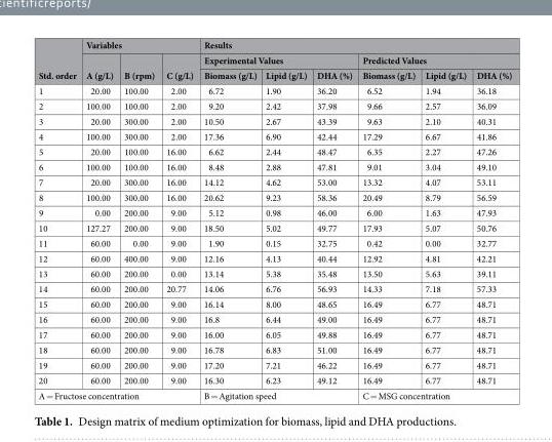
<table><thead><tr><td rowspan="3">Std. order</td><td colspan="3">Variables</td><td colspan="6">Results</td></tr><tr><td rowspan="2">A (g/L)</td><td rowspan="2">B (rpm)</td><td rowspan="2">C (g/L)</td><td colspan="3">Experimental Values</td><td colspan="3">Predicted Values</td></tr><tr><td>Biomass (g/L)</td><td>Lipid (g/L)</td><td>DHA (%)</td><td>Biomass (g/L)</td><td>Lipid (g/L)</td><td>DHA (%)</td></tr></thead><tbody><tr><td>1</td><td>20.00</td><td>100.00</td><td>2.00</td><td>6.72</td><td>1.90</td><td>36.20</td><td>6.52</td><td>1.94</td><td>36.18</td></tr><tr><td>2</td><td>100.00</td><td>100.00</td><td>2.00</td><td>9.20</td><td>2.42</td><td>37.98</td><td>9.66</td><td>2.57</td><td>36.09</td></tr><tr><td>3</td><td>20.00</td><td>300.00</td><td>2.00</td><td>10.50</td><td>2.67</td><td>43.39</td><td>9.63</td><td>2.10</td><td>40.31</td></tr><tr><td>4</td><td>100.00</td><td>300.00</td><td>2.00</td><td>17.36</td><td>6.90</td><td>42.44</td><td>17.29</td><td>6.67</td><td>41.86</td></tr><tr><td>5</td><td>20.00</td><td>100.00</td><td>16.00</td><td>6.62</td><td>2.44</td><td>48.47</td><td>6.35</td><td>2.27</td><td>47.26</td></tr><tr><td>6</td><td>100.00</td><td>100.00</td><td>16.00</td><td>8.48</td><td>2.88</td><td>47.81</td><td>9.01</td><td>3.04</td><td>49.10</td></tr><tr><td>7</td><td>20.00</td><td>300.00</td><td>16.00</td><td>14.12</td><td>4.62</td><td>53.00</td><td>13.32</td><td>4.07</td><td>53.11</td></tr><tr><td>8</td><td>100.00</td><td>300.00</td><td>16.00</td><td>20.62</td><td>9.23</td><td>58.36</td><td>20.49</td><td>8.79</td><td>56.59</td></tr><tr><td>9</td><td>0.00</td><td>200.00</td><td>9.00</td><td>5.12</td><td>0.98</td><td>46.00</td><td>6.00</td><td>1.63</td><td>47.93</td></tr><tr><td>10</td><td>127.27</td><td>200.00</td><td>9.00</td><td>18.50</td><td>5.02</td><td>49.77</td><td>17.93</td><td>5.07</td><td>50.76</td></tr><tr><td>11</td><td>60.00</td><td>0.00</td><td>9.00</td><td>1.90</td><td>0.15</td><td>32.75</td><td>0.42</td><td>0.00</td><td>32.77</td></tr><tr><td>12</td><td>60.00</td><td>400.00</td><td>9.00</td><td>12.16</td><td>4.13</td><td>40.44</td><td>12.92</td><td>4.81</td><td>42.21</td></tr><tr><td>13</td><td>60.00</td><td>200.00</td><td>0.00</td><td>13.14</td><td>5.38</td><td>35.48</td><td>13.50</td><td>5.63</td><td>39.11</td></tr><tr><td>14</td><td>60.00</td><td>200.00</td><td>20.77</td><td>14.06</td><td>6.76</td><td>56.93</td><td>14.33</td><td>7.18</td><td>57.33</td></tr><tr><td>15</td><td>60.00</td><td>200.00</td><td>9.00</td><td>16.14</td><td>8.00</td><td>48.65</td><td>16.49</td><td>6.77</td><td>48.71</td></tr><tr><td>16</td><td>60.00</td><td>200.00</td><td>9.00</td><td>16.8</td><td>6.44</td><td>49.00</td><td>16.49</td><td>6.77</td><td>48.71</td></tr><tr><td>17</td><td>60.00</td><td>200.00</td><td>9.00</td><td>16.00</td><td>6.05</td><td>49.88</td><td>16.49</td><td>6.77</td><td>48.71</td></tr><tr><td>18</td><td>60.00</td><td>200.00</td><td>9.00</td><td>16.78</td><td>6.83</td><td>51.00</td><td>16.49</td><td>6.77</td><td>48.71</td></tr><tr><td>19</td><td>60.00</td><td>200.00</td><td>9.00</td><td>17.20</td><td>7.21</td><td>46.22</td><td>16.49</td><td>6.77</td><td>48.71</td></tr><tr><td>20</td><td>60.00</td><td>200.00</td><td>9.00</td><td>16.30</td><td>6.23</td><td>49.12</td><td>16.49</td><td>6.77</td><td>48.71</td></tr><tr><td colspan="4">A = Fructose concentration</td><td colspan="3">B = Agitation speed</td><td colspan="3">C = MSG concentration</td></tr></tbody></table>